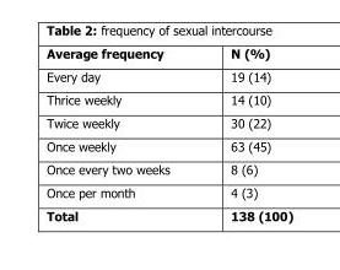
<table><thead><tr><td>Average frequency</td><td>N (%)</td></tr></thead><tbody><tr><td>Every day</td><td>19 (14)</td></tr><tr><td>Thrice weekly</td><td>14 (10)</td></tr><tr><td>Twice weekly</td><td>30 (22)</td></tr><tr><td>Once weekly</td><td>63 (45)</td></tr><tr><td>Once every two weeks</td><td>8 (6)</td></tr><tr><td>Once per month</td><td>4 (3)</td></tr><tr><td>Total</td><td>138 (100)</td></tr></tbody></table>